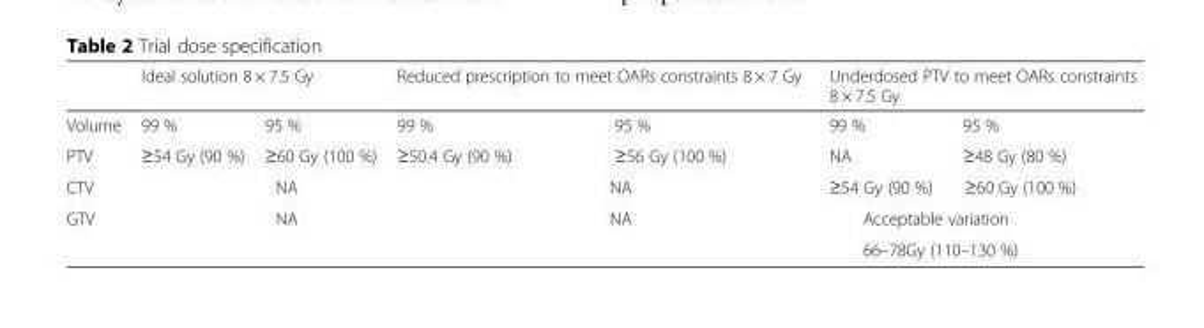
<table><thead><tr><td rowspan="2">Volume</td><td colspan="2">Ideal solution 8 × 7.5 Gy</td><td colspan="2">Reduced prescription to meet OARs constraints 8 × 7 Gy</td><td colspan="2">Underdosed PTV to meet OARs constraints 8 × 7.5 Gy</td></tr><tr><td>99 %</td><td>95 %</td><td>99 %</td><td>95 %</td><td>99 %</td><td>95 %</td></tr></thead><tbody><tr><td>PTV</td><td>≥54 Gy (90 %)</td><td>≥60 Gy (100 %)</td><td>≥50.4 Gy (90 %)</td><td>≥56 Gy (100 %)</td><td>NA</td><td>≥48 Gy (80 %)</td></tr><tr><td>CTV</td><td colspan="2">NA</td><td colspan="2">NA</td><td colspan="2">≥54 Gy (90 %) ≥60 Gy (100 %)</td></tr><tr><td rowspan="2">GTV</td><td rowspan="2" colspan="2">NA</td><td rowspan="2" colspan="2">NA</td><td colspan="2">Acceptable variation</td></tr><tr><td colspan="2">66–78Gy (110–130 %)</td></tr></tbody></table>